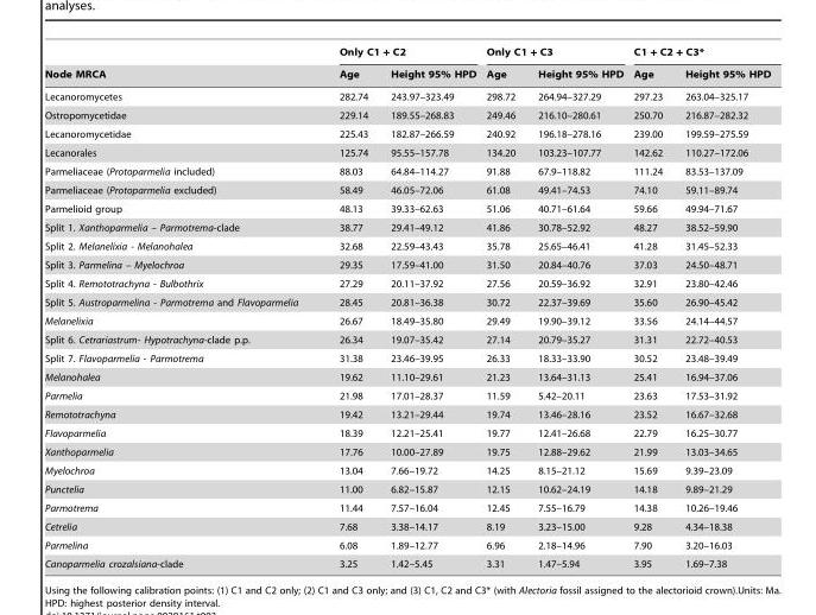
<table><thead><tr><td rowspan="2">Node MRCA</td><td colspan="2">Only C1 + C2</td><td colspan="2">Only C1 + C3</td><td colspan="2">C1 + C2 + C3*</td></tr><tr><td>Age</td><td>Height 95% HPD</td><td>Age</td><td>Height 95% HPD</td><td>Age</td><td>Height 95% HPD</td></tr></thead><tbody><tr><td>Lecanoromycetes</td><td>282.74</td><td>243.97–323.49</td><td>298.72</td><td>264.94–327.29</td><td>297.23</td><td>263.04–325.17</td></tr><tr><td>Ostropomycetidae</td><td>229.14</td><td>189.55–268.83</td><td>249.46</td><td>216.10–280.61</td><td>250.70</td><td>216.87–282.32</td></tr><tr><td>Lecanoromycetidae</td><td>225.43</td><td>182.87–266.59</td><td>240.92</td><td>196.18–278.16</td><td>239.00</td><td>199.59–275.59</td></tr><tr><td>Lecanorales</td><td>125.74</td><td>95.55–157.78</td><td>134.20</td><td>103.23–107.77</td><td>142.62</td><td>110.27–172.06</td></tr><tr><td>Parmeliaceae (Protoparmelia included)</td><td>88.03</td><td>64.84–114.27</td><td>91.88</td><td>67.9–118.82</td><td>111.24</td><td>83.53–137.09</td></tr><tr><td>Parmeliaceae (Protoparmelia excluded)</td><td>58.49</td><td>46.05–72.06</td><td>61.08</td><td>49.41–74.53</td><td>74.10</td><td>59.11–89.74</td></tr><tr><td>Parmelioid group</td><td>48.13</td><td>39.33–62.63</td><td>51.06</td><td>40.71–61.64</td><td>59.66</td><td>49.94–71.67</td></tr><tr><td>Split 1. Xanthoparmelia – Parmotrema-clade</td><td>38.77</td><td>29.41–49.12</td><td>41.86</td><td>30.78–52.92</td><td>48.27</td><td>38.52–59.90</td></tr><tr><td>Split 2. Melanelixia - Melanohalea</td><td>32.68</td><td>22.59–43.43</td><td>35.78</td><td>25.65–46.41</td><td>41.28</td><td>31.45–52.33</td></tr><tr><td>Split 3. Parmelina – Myelochroa</td><td>29.35</td><td>17.59–41.00</td><td>31.50</td><td>20.84–40.76</td><td>37.03</td><td>24.50–48.71</td></tr><tr><td>Split 4. Remototrachyna - Bulbothrix</td><td>27.29</td><td>20.11–37.92</td><td>27.56</td><td>20.59–36.92</td><td>32.91</td><td>23.80–42.46</td></tr><tr><td>Split 5. Austroparmelina - Parmotrema and Flavoparmelia</td><td>28.45</td><td>20.81–36.38</td><td>30.72</td><td>22.37–39.69</td><td>35.60</td><td>26.90–45.42</td></tr><tr><td>Melanelixia</td><td>26.67</td><td>18.49–35.80</td><td>29.49</td><td>19.90–39.12</td><td>33.56</td><td>24.14–44.57</td></tr><tr><td>Split 6. Cetrariastrum- Hypotrachyna-clade p.p.</td><td>26.34</td><td>19.07–35.42</td><td>27.14</td><td>20.79–35.27</td><td>31.31</td><td>22.72–40.53</td></tr><tr><td>Split 7. Flavoparmelia - Parmotrema</td><td>31.38</td><td>23.46–39.95</td><td>26.33</td><td>18.33–33.90</td><td>30.52</td><td>23.48–39.49</td></tr><tr><td>Melanohalea</td><td>19.62</td><td>11.10–29.61</td><td>21.23</td><td>13.64–31.13</td><td>25.41</td><td>16.94–37.06</td></tr><tr><td>Parmelia</td><td>21.98</td><td>17.01–28.37</td><td>11.59</td><td>5.42–20.11</td><td>23.63</td><td>17.53–31.92</td></tr><tr><td>Remototrachyna</td><td>19.42</td><td>13.21–29.44</td><td>19.74</td><td>13.46–28.16</td><td>23.52</td><td>16.67–32.68</td></tr><tr><td>Flavoparmelia</td><td>18.39</td><td>12.21–25.41</td><td>19.77</td><td>12.41–26.68</td><td>22.79</td><td>16.25–30.77</td></tr><tr><td>Xanthoparmelia</td><td>17.76</td><td>10.00–27.89</td><td>19.75</td><td>12.88–29.62</td><td>21.99</td><td>13.03–34.65</td></tr><tr><td>Myelochroa</td><td>13.04</td><td>7.66–19.72</td><td>14.25</td><td>8.15–21.12</td><td>15.69</td><td>9.39–23.09</td></tr><tr><td>Punctelia</td><td>11.00</td><td>6.82–15.87</td><td>12.15</td><td>10.62–24.19</td><td>14.18</td><td>9.89–21.29</td></tr><tr><td>Parmotrema</td><td>11.44</td><td>7.57–16.04</td><td>12.45</td><td>7.55–16.79</td><td>14.38</td><td>10.26–19.46</td></tr><tr><td>Cetrelia</td><td>7.68</td><td>3.38–14.17</td><td>8.19</td><td>3.23–15.00</td><td>9.28</td><td>4.34–18.38</td></tr><tr><td>Parmelina</td><td>6.08</td><td>1.89–12.77</td><td>6.96</td><td>2.18–14.96</td><td>7.90</td><td>3.20–16.03</td></tr><tr><td>Canoparmelia crozalsiana-clade</td><td>3.25</td><td>1.42–5.45</td><td>3.31</td><td>1.47–5.94</td><td>3.95</td><td>1.69–7.38</td></tr></tbody></table>